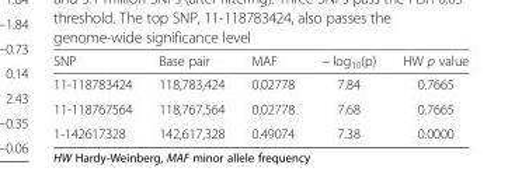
<table><thead><tr><td>SNP</td><td>Base pair</td><td>MAF</td><td>− log<sub>10</sub>(p)</td><td>HW p value</td></tr></thead><tbody><tr><td>11-118783424</td><td>118,783,424</td><td>0.02778</td><td>7.84</td><td>0.7665</td></tr><tr><td>11-118767564</td><td>118,767,564</td><td>0.02778</td><td>7.68</td><td>0.7665</td></tr><tr><td>1-142617328</td><td>142,617,328</td><td>0.49074</td><td>7.38</td><td>0.0000</td></tr></tbody></table>